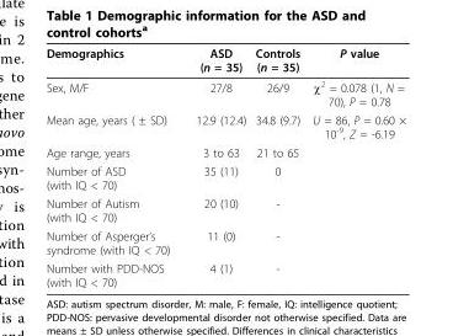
<table><thead><tr><td>Demographics</td><td>ASD (n = 35)</td><td>Controls (n = 35)</td><td>P value</td></tr></thead><tbody><tr><td>Sex, M/F</td><td>27/8</td><td>26/9</td><td>χ<sup>2</sup> = 0.078 (1, N = 70), P = 0.78</td></tr><tr><td>Mean age, years ( ± SD)</td><td>12.9 (12.4)</td><td>34.8 (9.7)</td><td>U = 86, P = 0.60 × 10<sup>-9</sup>, Z = -6.19</td></tr><tr><td>Age range, years</td><td>3 to 63</td><td>21 to 65</td><td></td></tr><tr><td>Number of ASD (with IQ &lt; 70)</td><td>35 (11)</td><td>0</td><td></td></tr><tr><td>Number of Autism (with IQ &lt; 70)</td><td>20 (10)</td><td>-</td><td></td></tr><tr><td>Number of Asperger’s syndrome (with IQ &lt; 70)</td><td>11 (0)</td><td>-</td><td></td></tr><tr><td>Number with PDD-NOS (with IQ &lt; 70)</td><td>4 (1)</td><td>-</td><td></td></tr></tbody></table>